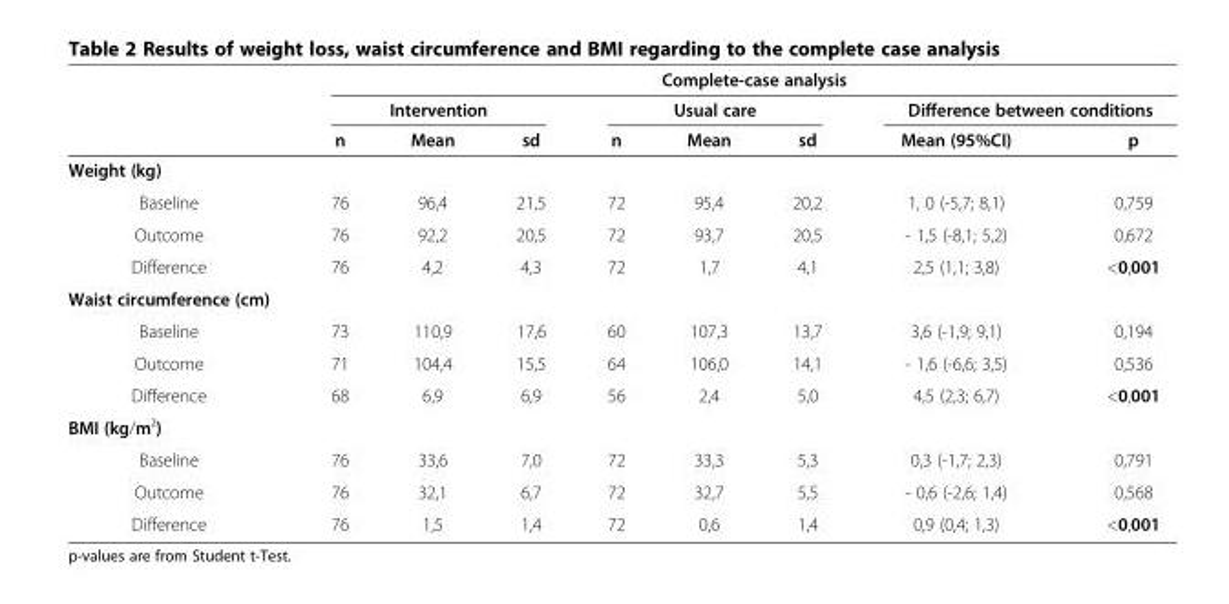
<table><thead><tr><td rowspan="3"></td><td colspan="8">Complete-case analysis</td></tr><tr><td colspan="3">Intervention</td><td colspan="3">Usual care</td><td colspan="2">Difference between conditions</td></tr><tr><td>n</td><td>Mean</td><td>sd</td><td>n</td><td>Mean</td><td>sd</td><td>Mean (95%CI)</td><td>p</td></tr></thead><tbody><tr><td colspan="9">Weight (kg)</td></tr><tr><td>Baseline</td><td>76</td><td>96,4</td><td>21,5</td><td>72</td><td>95,4</td><td>20,2</td><td>1, 0 (-5,7; 8,1)</td><td>0,759</td></tr><tr><td>Outcome</td><td>76</td><td>92,2</td><td>20,5</td><td>72</td><td>93,7</td><td>20,5</td><td>- 1,5 (-8,1; 5,2)</td><td>0,672</td></tr><tr><td>Difference</td><td>76</td><td>4,2</td><td>4,3</td><td>72</td><td>1,7</td><td>4,1</td><td>2,5 (1,1; 3,8)</td><td>&lt;0,001</td></tr><tr><td colspan="9">Waist circumference (cm)</td></tr><tr><td>Baseline</td><td>73</td><td>110,9</td><td>17,6</td><td>60</td><td>107,3</td><td>13,7</td><td>3,6 (-1,9; 9,1)</td><td>0,194</td></tr><tr><td>Outcome</td><td>71</td><td>104,4</td><td>15,5</td><td>64</td><td>106,0</td><td>14,1</td><td>- 1,6 (-6,6; 3,5)</td><td>0,536</td></tr><tr><td>Difference</td><td>68</td><td>6,9</td><td>6,9</td><td>56</td><td>2,4</td><td>5,0</td><td>4,5 (2,3; 6,7)</td><td>&lt;0,001</td></tr><tr><td colspan="9">BMI (kg/m²)</td></tr><tr><td>Baseline</td><td>76</td><td>33,6</td><td>7,0</td><td>72</td><td>33,3</td><td>5,3</td><td>0,3 (-1,7; 2,3)</td><td>0,791</td></tr><tr><td>Outcome</td><td>76</td><td>32,1</td><td>6,7</td><td>72</td><td>32,7</td><td>5,5</td><td>- 0,6 (-2,6; 1,4)</td><td>0,568</td></tr><tr><td>Difference</td><td>76</td><td>1,5</td><td>1,4</td><td>72</td><td>0,6</td><td>1,4</td><td>0,9 (0,4; 1,3)</td><td>&lt;0,001</td></tr></tbody></table>